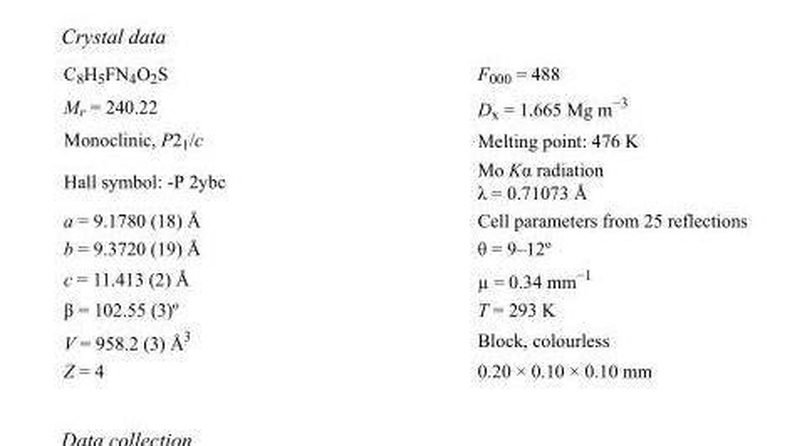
<table><tbody><tr><td>C<sub>8</sub>H<sub>5</sub>FN<sub>4</sub>O<sub>2</sub>S</td><td>F000 = 488</td></tr><tr><td>M<sub>r</sub> = 240.22</td><td>D<sub>x</sub> = 1.665 Mg m<sup>−3</sup></td></tr><tr><td>Monoclinic, P2<sub>1</sub>/c</td><td>Melting point: 476 K</td></tr><tr><td>Hall symbol: -P 2ybc</td><td>Mo Kα radiation λ = 0.71073 Å</td></tr><tr><td>a = 9.1780 (18) Å</td><td>Cell parameters from 25 reflections</td></tr><tr><td>b = 9.3720 (19) Å</td><td>θ = 9–12º</td></tr><tr><td>c = 11.413 (2) Å</td><td>µ = 0.34 mm<sup>−1</sup></td></tr><tr><td>β = 102.55 (3)º</td><td>T = 293 K</td></tr><tr><td>V = 958.2 (3) Å<sup>3</sup></td><td>Block, colourless</td></tr><tr><td>Z = 4</td><td>0.20 × 0.10 × 0.10 mm</td></tr></tbody></table>